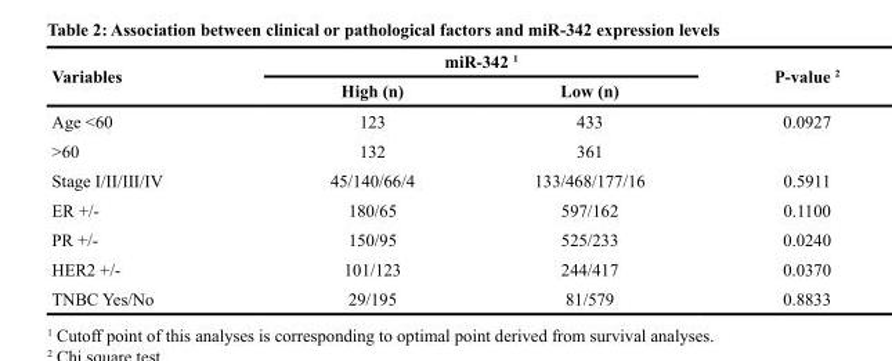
<table><thead><tr><td rowspan="2">Variables</td><td colspan="2">miR-342 <sup>1</sup></td><td rowspan="2">P-value <sup>2</sup></td></tr><tr><td>High (n)</td><td>Low (n)</td></tr></thead><tbody><tr><td>Age &lt;60</td><td>123</td><td>433</td><td>0.0927</td></tr><tr><td>&gt;60</td><td>132</td><td>361</td><td></td></tr><tr><td>Stage I/II/III/IV</td><td>45/140/66/4</td><td>133/468/177/16</td><td>0.5911</td></tr><tr><td>ER +/-</td><td>180/65</td><td>597/162</td><td>0.1100</td></tr><tr><td>PR +/-</td><td>150/95</td><td>525/233</td><td>0.0240</td></tr><tr><td>HER2 +/-</td><td>101/123</td><td>244/417</td><td>0.0370</td></tr><tr><td>TNBC Yes/No</td><td>29/195</td><td>81/579</td><td>0.8833</td></tr></tbody></table>